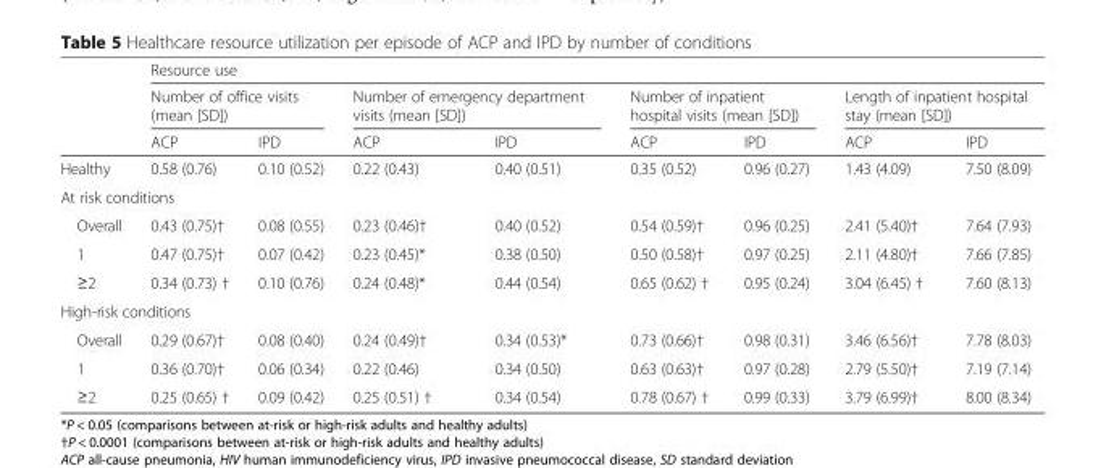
<table><thead><tr><td rowspan="3"></td><td colspan="8">Resource use</td></tr><tr><td colspan="2">Number of office visits (mean [SD])</td><td colspan="2">Number of emergency department visits (mean [SD])</td><td colspan="2">Number of inpatient hospital visits (mean [SD])</td><td colspan="2">Length of inpatient hospital stay (mean [SD])</td></tr><tr><td>ACP</td><td>IPD</td><td>ACP</td><td>IPD</td><td>ACP</td><td>IPD</td><td>ACP</td><td>IPD</td></tr></thead><tbody><tr><td>Healthy</td><td>0.58 (0.76)</td><td>0.10 (0.52)</td><td>0.22 (0.43)</td><td>0.40 (0.51)</td><td>0.35 (0.52)</td><td>0.96 (0.27)</td><td>1.43 (4.09)</td><td>7.50 (8.09)</td></tr><tr><td colspan="9">At risk conditions</td></tr><tr><td>Overall</td><td>0.43 (0.75)†</td><td>0.08 (0.55)</td><td>0.23 (0.46)†</td><td>0.40 (0.52)</td><td>0.54 (0.59)†</td><td>0.96 (0.25)</td><td>2.41 (5.40)†</td><td>7.64 (7.93)</td></tr><tr><td>1</td><td>0.47 (0.75)†</td><td>0.07 (0.42)</td><td>0.23 (0.45)*</td><td>0.38 (0.50)</td><td>0.50 (0.58)†</td><td>0.97 (0.25)</td><td>2.11 (4.80)†</td><td>7.66 (7.85)</td></tr><tr><td>≥2</td><td>0.34 (0.73) †</td><td>0.10 (0.76)</td><td>0.24 (0.48)*</td><td>0.44 (0.54)</td><td>0.65 (0.62) †</td><td>0.95 (0.24)</td><td>3.04 (6.45) †</td><td>7.60 (8.13)</td></tr><tr><td colspan="9">High-risk conditions</td></tr><tr><td>Overall</td><td>0.29 (0.67)†</td><td>0.08 (0.40)</td><td>0.24 (0.49)†</td><td>0.34 (0.53)*</td><td>0.73 (0.66)†</td><td>0.98 (0.31)</td><td>3.46 (6.56)†</td><td>7.78 (8.03)</td></tr><tr><td>1</td><td>0.36 (0.70)†</td><td>0.06 (0.34)</td><td>0.22 (0.46)</td><td>0.34 (0.50)</td><td>0.63 (0.63)†</td><td>0.97 (0.28)</td><td>2.79 (5.50)†</td><td>7.19 (7.14)</td></tr><tr><td>≥2</td><td>0.25 (0.65) †</td><td>0.09 (0.42)</td><td>0.25 (0.51) †</td><td>0.34 (0.54)</td><td>0.78 (0.67) †</td><td>0.99 (0.33)</td><td>3.79 (6.99)†</td><td>8.00 (8.34)</td></tr></tbody></table>